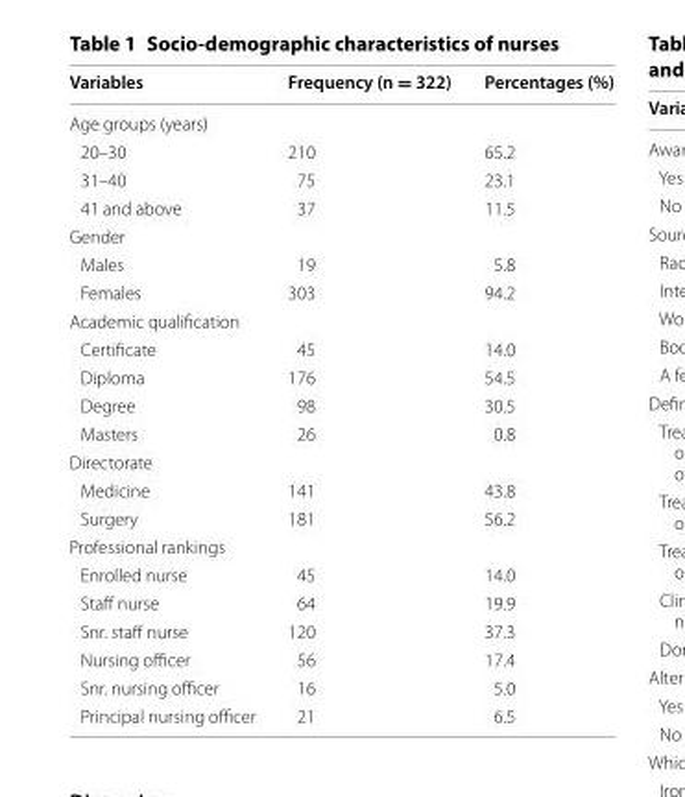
<table><thead><tr><td>Variables</td><td>Frequency (n = 322)</td><td>Percentages (%)</td></tr></thead><tbody><tr><td colspan="3">Age groups (years)</td></tr><tr><td>20–30</td><td>210</td><td>65.2</td></tr><tr><td>31–40</td><td>75</td><td>23.1</td></tr><tr><td>41 and above</td><td>37</td><td>11.5</td></tr><tr><td colspan="3">Gender</td></tr><tr><td>Males</td><td>19</td><td>5.8</td></tr><tr><td>Females</td><td>303</td><td>94.2</td></tr><tr><td colspan="3">Academic qualification</td></tr><tr><td>Certificate</td><td>45</td><td>14.0</td></tr><tr><td>Diploma</td><td>176</td><td>54.5</td></tr><tr><td>Degree</td><td>98</td><td>30.5</td></tr><tr><td>Masters</td><td>26</td><td>0.8</td></tr><tr><td colspan="3">Directorate</td></tr><tr><td>Medicine</td><td>141</td><td>43.8</td></tr><tr><td>Surgery</td><td>181</td><td>56.2</td></tr><tr><td colspan="3">Professional rankings</td></tr><tr><td>Enrolled nurse</td><td>45</td><td>14.0</td></tr><tr><td>Staff nurse</td><td>64</td><td>19.9</td></tr><tr><td>Snr. staff nurse</td><td>120</td><td>37.3</td></tr><tr><td>Nursing officer</td><td>56</td><td>17.4</td></tr><tr><td>Snr. nursing officer</td><td>16</td><td>5.0</td></tr><tr><td>Principal nursing officer</td><td>21</td><td>6.5</td></tr></tbody></table>